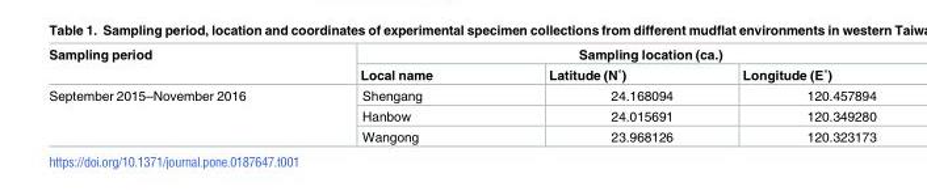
<table><thead><tr><td rowspan="2">Sampling period</td><td colspan="3">Sampling location (ca.)</td></tr><tr><td>Local name</td><td>Latitude (N˚)</td><td>Longitude (E˚)</td></tr></thead><tbody><tr><td rowspan="3">September 2015–November 2016</td><td>Shengang</td><td>24.168094</td><td>120.457894</td></tr><tr><td>Hanbow</td><td>24.015691</td><td>120.349280</td></tr><tr><td>Wangong</td><td>23.968126</td><td>120.323173</td></tr></tbody></table>